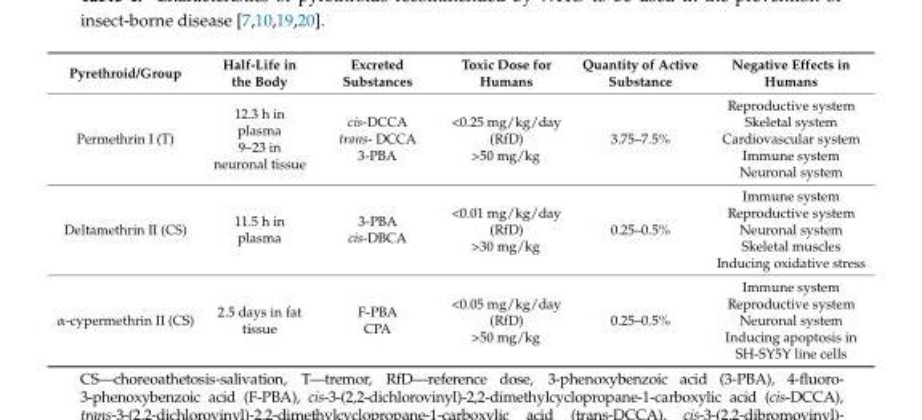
<table><thead><tr><td>Pyrethroid/Group</td><td>Half-Life in the Body</td><td>Excreted Substances</td><td>Toxic Dose for Humans</td><td>Quantity of Active Substance</td><td>Negative Effects in Humans</td></tr></thead><tbody><tr><td>Permethrin I (T)</td><td>12.3 h in plasma 9–23 in neuronal tissue</td><td>cis-DCCA trans- DCCA 3-PBA</td><td>&lt;0.25 mg/kg/day (RfD) &gt;50 mg/kg</td><td>3.75–7.5%</td><td>Reproductive system Skeletal system Cardiovascular system Immune system Neuronal system</td></tr><tr><td>Deltamethrin II (CS)</td><td>11.5 h in plasma</td><td>3-PBA cis-DBCA</td><td>&lt;0.01 mg/kg/day (RfD) &gt;30 mg/kg</td><td>0.25–0.5%</td><td>Immune system Reproductive system Neuronal system Skeletal muscles Inducing oxidative stress</td></tr><tr><td>α-cypermethrin II (CS)</td><td>2.5 days in fat tissue</td><td>F-PBA CPA</td><td>&lt;0.05 mg/kg/day (RfD) &gt;50 mg/kg</td><td>0.25–0.5%</td><td>Immune system Reproductive system Neuronal system Inducing apoptosis in SH-SY5Y line cells</td></tr></tbody></table>